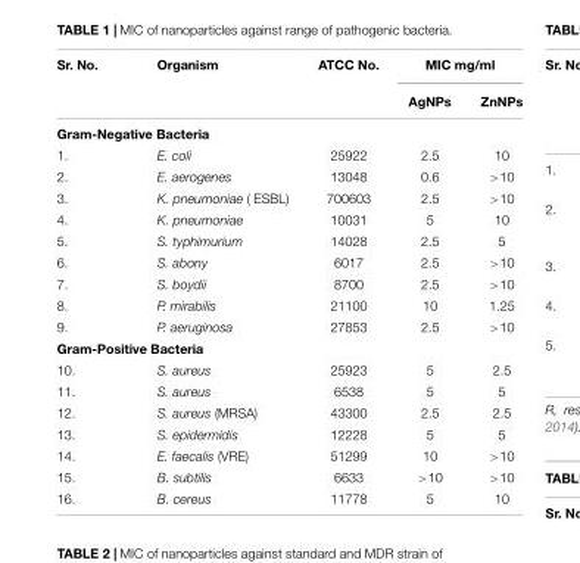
<table><thead><tr><td rowspan="2">Sr. No.</td><td rowspan="2">Organism</td><td rowspan="2">ATCC No.</td><td colspan="2">MIC mg/ml</td></tr><tr><td>AgNPs</td><td>ZnNPs</td></tr></thead><tbody><tr><td colspan="5">Gram-Negative Bacteria</td></tr><tr><td>1.</td><td>E. coli</td><td>25922</td><td>2.5</td><td>10</td></tr><tr><td>2.</td><td>E. aerogenes</td><td>13048</td><td>0.6</td><td>&gt;10</td></tr><tr><td>3.</td><td>K. pneumoniae ( ESBL)</td><td>700603</td><td>2.5</td><td>&gt;10</td></tr><tr><td>4.</td><td>K. pneumoniae</td><td>10031</td><td>5</td><td>10</td></tr><tr><td>5.</td><td>S. typhimurium</td><td>14028</td><td>2.5</td><td>5</td></tr><tr><td>6.</td><td>S. abony</td><td>6017</td><td>2.5</td><td>&gt;10</td></tr><tr><td>7.</td><td>S. boydii</td><td>8700</td><td>2.5</td><td>&gt;10</td></tr><tr><td>8.</td><td>P. mirabilis</td><td>21100</td><td>10</td><td>1.25</td></tr><tr><td>9.</td><td>P. aeruginosa</td><td>27853</td><td>2.5</td><td>&gt;10</td></tr><tr><td colspan="5">Gram-Positive Bacteria</td></tr><tr><td>10.</td><td>S. aureus</td><td>25923</td><td>5</td><td>2.5</td></tr><tr><td>11.</td><td>S. aureus</td><td>6538</td><td>5</td><td>5</td></tr><tr><td>12.</td><td>S. aureus (MRSA)</td><td>43300</td><td>2.5</td><td>2.5</td></tr><tr><td>13.</td><td>S. epidermidis</td><td>12228</td><td>5</td><td>5</td></tr><tr><td>14.</td><td>E. faecalis (VRE)</td><td>51299</td><td>10</td><td>&gt;10</td></tr><tr><td>15.</td><td>B. subtilis</td><td>6633</td><td>&gt;10</td><td>&gt;10</td></tr><tr><td>16.</td><td>B. cereus</td><td>11778</td><td>5</td><td>10</td></tr></tbody></table>